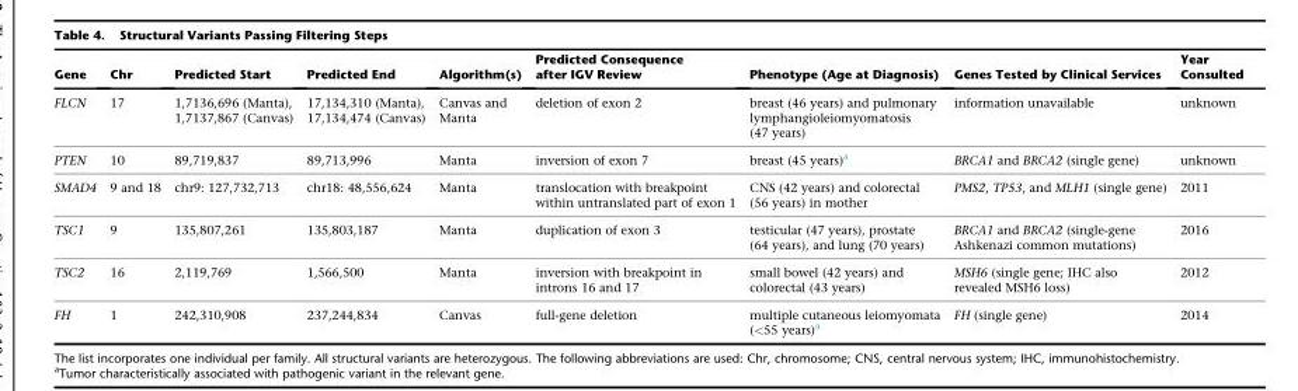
<table><thead><tr><td>Gene</td><td>Chr</td><td>Predicted Start</td><td>Predicted End</td><td>Algorithm(s)</td><td>Predicted Consequence after IGV Review</td><td>Phenotype (Age at Diagnosis)</td><td>Genes Tested by Clinical Services</td><td>Year Consulted</td></tr></thead><tbody><tr><td>FLCN</td><td>17</td><td>1,7136,696 (Manta), 1,7137,867 (Canvas)</td><td>17,134,310 (Manta), 17,134,474 (Canvas)</td><td>Canvas and Manta</td><td>deletion of exon 2</td><td>breast (46 years) and pulmonary lymphangioleiomyomatosis (47 years)</td><td>information unavailable</td><td>unknown</td></tr><tr><td>PTEN</td><td>10</td><td>89,719,837</td><td>89,713,996</td><td>Manta</td><td>inversion of exon 7</td><td>breast (45 years)<sup>a</sup></td><td>BRCA1 and BRCA2 (single gene)</td><td>unknown</td></tr><tr><td>SMAD4</td><td>9 and 18</td><td>chr9: 127,732,713</td><td>chr18: 48,556,624</td><td>Manta</td><td>translocation with breakpoint within untranslated part of exon 1</td><td>CNS (42 years) and colorectal (56 years) in mother</td><td>PMS2, TP53, and MLH1 (single gene)</td><td>2011</td></tr><tr><td>TSC1</td><td>9</td><td>135,807,261</td><td>135,803,187</td><td>Manta</td><td>duplication of exon 3</td><td>testicular (47 years), prostate (64 years), and lung (70 years)</td><td>BRCA1 and BRCA2 (single-gene Ashkenazi common mutations)</td><td>2016</td></tr><tr><td>TSC2</td><td>16</td><td>2,119,769</td><td>1,566,500</td><td>Manta</td><td>inversion with breakpoint in introns 16 and 17</td><td>small bowel (42 years) and colorectal (43 years)</td><td>MSH6 (single gene; IHC also revealed MSH6 loss)</td><td>2012</td></tr><tr><td>FH</td><td>1</td><td>242,310,908</td><td>237,244,834</td><td>Canvas</td><td>full-gene deletion</td><td>multiple cutaneous leiomyomata (&lt;55 years)<sup>a</sup></td><td>FH (single gene)</td><td>2014</td></tr></tbody></table>